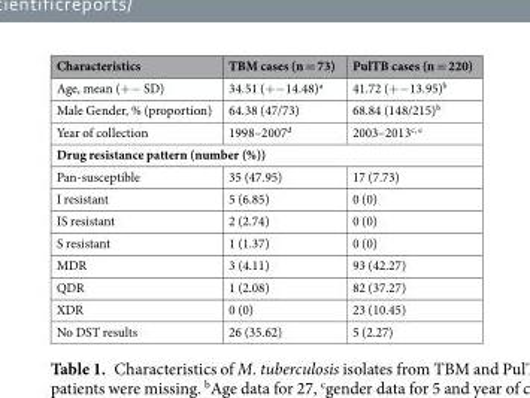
<table><thead><tr><td>Characteristics</td><td>TBM cases (n = 73)</td><td>PulTB cases (n = 220)</td></tr></thead><tbody><tr><td>Age, mean (+− SD)</td><td>34.51 (+−14.48)<sup>a</sup></td><td>41.72 (+−13.95)<sup>b</sup></td></tr><tr><td>Male Gender, % (proportion)</td><td>64.38 (47/73)</td><td>68.84 (148/215)<sup>b</sup></td></tr><tr><td>Year of collection</td><td>1998–2007<sup>d</sup></td><td>2003–2013<sup>c, e</sup></td></tr><tr><td colspan="3">Drug resistance pattern (number (%))</td></tr><tr><td>Pan-susceptible</td><td>35 (47.95)</td><td>17 (7.73)</td></tr><tr><td>I resistant</td><td>5 (6.85)</td><td>0 (0)</td></tr><tr><td>IS resistant</td><td>2 (2.74)</td><td>0 (0)</td></tr><tr><td>S resistant</td><td>1 (1.37)</td><td>0 (0)</td></tr><tr><td>MDR</td><td>3 (4.11)</td><td>93 (42.27)</td></tr><tr><td>QDR</td><td>1 (2.08)</td><td>82 (37.27)</td></tr><tr><td>XDR</td><td>0 (0)</td><td>23 (10.45)</td></tr><tr><td>No DST results</td><td>26 (35.62)</td><td>5 (2.27)</td></tr></tbody></table>